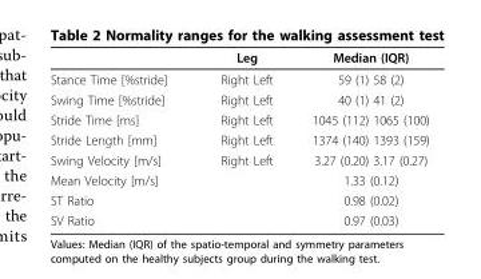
<table><thead><tr><td></td><td>Leg</td><td>Median (IQR)</td></tr></thead><tbody><tr><td>Stance Time [%stride]</td><td>Right Left</td><td>59 (1) 58 (2)</td></tr><tr><td>Swing Time [%stride]</td><td>Right Left</td><td>40 (1) 41 (2)</td></tr><tr><td>Stride Time [ms]</td><td>Right Left</td><td>1045 (112) 1065 (100)</td></tr><tr><td>Stride Length [mm]</td><td>Right Left</td><td>1374 (140) 1393 (159)</td></tr><tr><td>Swing Velocity [m/s]</td><td>Right Left</td><td>3.27 (0.20) 3.17 (0.27)</td></tr><tr><td>Mean Velocity [m/s]</td><td></td><td>1.33 (0.12)</td></tr><tr><td>ST Ratio</td><td></td><td>0.98 (0.02)</td></tr><tr><td>SV Ratio</td><td></td><td>0.97 (0.03)</td></tr></tbody></table>